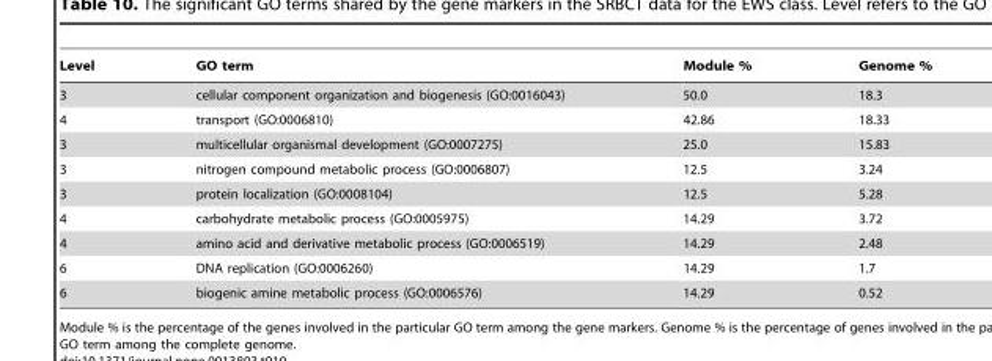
<table><thead><tr><td>Level</td><td>GO term</td><td>Module %</td><td>Genome %</td></tr></thead><tbody><tr><td>3</td><td>cellular component organization and biogenesis (GO:0016043)</td><td>50.0</td><td>18.3</td></tr><tr><td>4</td><td>transport (GO:0006810)</td><td>42.86</td><td>18.33</td></tr><tr><td>3</td><td>multicellular organismal development (GO:0007275)</td><td>25.0</td><td>15.83</td></tr><tr><td>3</td><td>nitrogen compound metabolic process (GO:0006807)</td><td>12.5</td><td>3.24</td></tr><tr><td>3</td><td>protein localization (GO:0008104)</td><td>12.5</td><td>5.28</td></tr><tr><td>4</td><td>carbohydrate metabolic process (GO:0005975)</td><td>14.29</td><td>3.72</td></tr><tr><td>4</td><td>amino acid and derivative metabolic process (GO:0006519)</td><td>14.29</td><td>2.48</td></tr><tr><td>6</td><td>DNA replication (GO:0006260)</td><td>14.29</td><td>1.7</td></tr><tr><td>6</td><td>biogenic amine metabolic process (GO:0006576)</td><td>14.29</td><td>0.52</td></tr></tbody></table>